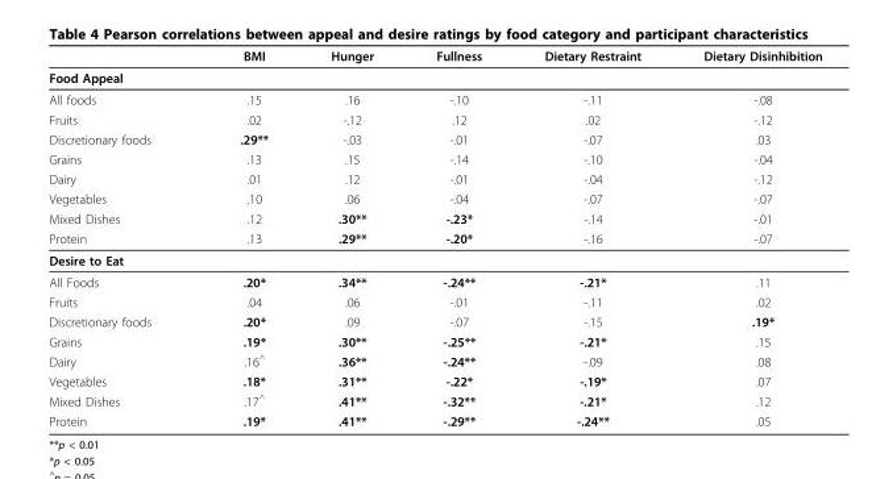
<table><thead><tr><td></td><td>BMI</td><td>Hunger</td><td>Fullness</td><td>Dietary Restraint</td><td>Dietary Disinhibition</td></tr></thead><tbody><tr><td colspan="6">Food Appeal</td></tr><tr><td>All foods</td><td>.15</td><td>.16</td><td>-.10</td><td>-.11</td><td>-.08</td></tr><tr><td>Fruits</td><td>.02</td><td>-.12</td><td>.12</td><td>.02</td><td>-.12</td></tr><tr><td>Discretionary foods</td><td>.29**</td><td>-.03</td><td>-.01</td><td>-.07</td><td>.03</td></tr><tr><td>Grains</td><td>.13</td><td>.15</td><td>-.14</td><td>-.10</td><td>-.04</td></tr><tr><td>Dairy</td><td>.01</td><td>.12</td><td>-.01</td><td>-.04</td><td>-.12</td></tr><tr><td>Vegetables</td><td>.10</td><td>.06</td><td>-.04</td><td>-.07</td><td>-.07</td></tr><tr><td>Mixed Dishes</td><td>.12</td><td>.30**</td><td>-.23*</td><td>-.14</td><td>-.01</td></tr><tr><td>Protein</td><td>.13</td><td>.29**</td><td>-.20*</td><td>-.16</td><td>-.07</td></tr><tr><td colspan="6">Desire to Eat</td></tr><tr><td>All Foods</td><td>.20*</td><td>.34**</td><td>-.24**</td><td>-.21*</td><td>.11</td></tr><tr><td>Fruits</td><td>.04</td><td>.06</td><td>-.01</td><td>-.11</td><td>.02</td></tr><tr><td>Discretionary foods</td><td>.20*</td><td>.09</td><td>-.07</td><td>-.15</td><td>.19*</td></tr><tr><td>Grains</td><td>.19*</td><td>.30**</td><td>-.25**</td><td>-.21*</td><td>.15</td></tr><tr><td>Dairy</td><td>.16<sup>^</sup></td><td>.36**</td><td>-.24**</td><td>-.09</td><td>.08</td></tr><tr><td>Vegetables</td><td>.18*</td><td>.31**</td><td>-.22*</td><td>-.19*</td><td>.07</td></tr><tr><td>Mixed Dishes</td><td>.17<sup>^</sup></td><td>.41**</td><td>-.32**</td><td>-.21*</td><td>.12</td></tr><tr><td>Protein</td><td>.19*</td><td>.41**</td><td>-.29**</td><td>-.24**</td><td>.05</td></tr></tbody></table>